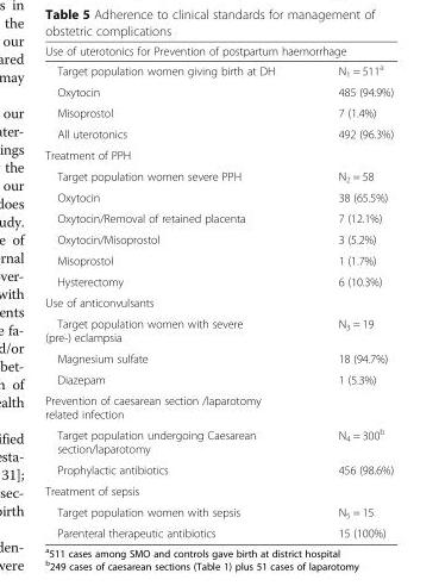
<table><thead><tr><td colspan="2">Use of uterotonics for Prevention of postpartum haemorrhage</td></tr><tr><td>Target population women giving birth at DH</td><td>N<sub>1</sub> = 511<sup>a</sup></td></tr></thead><tbody><tr><td>Oxytocin</td><td>485 (94.9%)</td></tr><tr><td>Misoprostol</td><td>7 (1.4%)</td></tr><tr><td>All uterotonics</td><td>492 (96.3%)</td></tr><tr><td colspan="2">Treatment of PPH</td></tr><tr><td>Target population women severe PPH</td><td>N<sub>2</sub> = 58</td></tr><tr><td>Oxytocin</td><td>38 (65.5%)</td></tr><tr><td>Oxytocin/Removal of retained placenta</td><td>7 (12.1%)</td></tr><tr><td>Oxytocin/Misoprostol</td><td>3 (5.2%)</td></tr><tr><td>Misoprostol</td><td>1 (1.7%)</td></tr><tr><td>Hysterectomy</td><td>6 (10.3%)</td></tr><tr><td colspan="2">Use of anticonvulsants</td></tr><tr><td>Target population women with severe (pre-) eclampsia</td><td>N<sub>3</sub> = 19</td></tr><tr><td>Magnesium sulfate</td><td>18 (94.7%)</td></tr><tr><td>Diazepam</td><td>1 (5.3%)</td></tr><tr><td colspan="2">Prevention of caesarean section /laparotomy related infection</td></tr><tr><td>Target population undergoing Caesarean section/laparotomy</td><td>N<sub>4</sub> = 300<sup>b</sup></td></tr><tr><td>Prophylactic antibiotics</td><td>456 (98.6%)</td></tr><tr><td colspan="2">Treatment of sepsis</td></tr><tr><td>Target population women with sepsis</td><td>N<sub>5</sub> = 15</td></tr><tr><td>Parenteral therapeutic antibiotics</td><td>15 (100%)</td></tr></tbody></table>